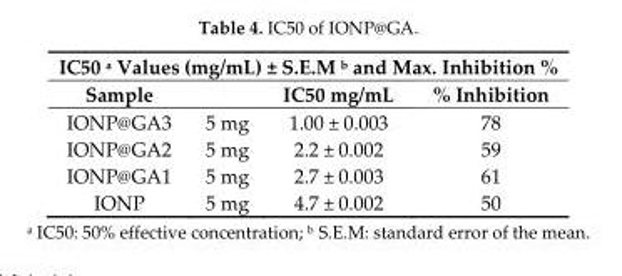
<table><thead><tr><td colspan="4">IC50 <sup>a</sup> Values (mg/mL) ± S.E.M <sup>b</sup> and Max. Inhibition %</td></tr><tr><td>Sample</td><td></td><td>IC50 mg/mL</td><td>% Inhibition</td></tr></thead><tbody><tr><td>IONP@GA3</td><td>5 mg</td><td>1.00 ± 0.003</td><td>78</td></tr><tr><td>IONP@GA2</td><td>5 mg</td><td>2.2 ± 0.002</td><td>59</td></tr><tr><td>IONP@GA1</td><td>5 mg</td><td>2.7 ± 0.003</td><td>61</td></tr><tr><td>IONP</td><td>5 mg</td><td>4.7 ± 0.002</td><td>50</td></tr></tbody></table>